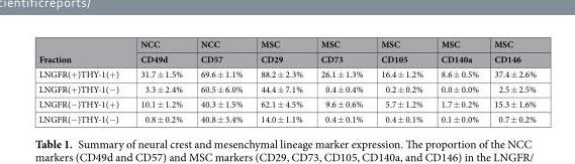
<table><thead><tr><td rowspan="2">Fraction</td><td rowspan="2">NCC CD49d</td><td rowspan="2">NCC CD57</td><td rowspan="2">MSC CD29</td><td rowspan="2">MSC CD73</td><td rowspan="2">MSC CD105</td><td rowspan="2">MSC CD140a</td><td rowspan="2">MSC CD146</td></tr><tr></tr></thead><tbody><tr><td>LNGFR(+)THY-1(+)</td><td>31.7 ± 1.5%</td><td>69.6 ± 1.1%</td><td>88.2 ± 2.3%</td><td>26.1 ± 1.3%</td><td>16.4 ± 1.2%</td><td>8.6 ± 0.5%</td><td>37.4 ± 2.6%</td></tr><tr><td>LNGFR(+)THY-1(−)</td><td>3.3 ± 2.4%</td><td>60.5 ± 6.0%</td><td>44.4 ± 7.1%</td><td>0.4 ± 0.4%</td><td>0.2 ± 0.2%</td><td>0.0 ± 0.0%</td><td>2.5 ± 2.5%</td></tr><tr><td>LNGFR(−)THY-1(+)</td><td>10.1 ± 1.2%</td><td>40.3 ± 1.5%</td><td>62.1 ± 4.5%</td><td>9.6 ± 0.6%</td><td>5.7 ± 1.2%</td><td>1.7 ± 0.2%</td><td>15.3 ± 1.6%</td></tr><tr><td>LNGFR(−)THY-1(−)</td><td>0.8 ± 0.2%</td><td>40.8 ± 3.4%</td><td>14.0 ± 1.1%</td><td>0.4 ± 0.1%</td><td>0.4 ± 0.1%</td><td>0.1 ± 0.0%</td><td>0.7 ± 0.2%</td></tr></tbody></table>